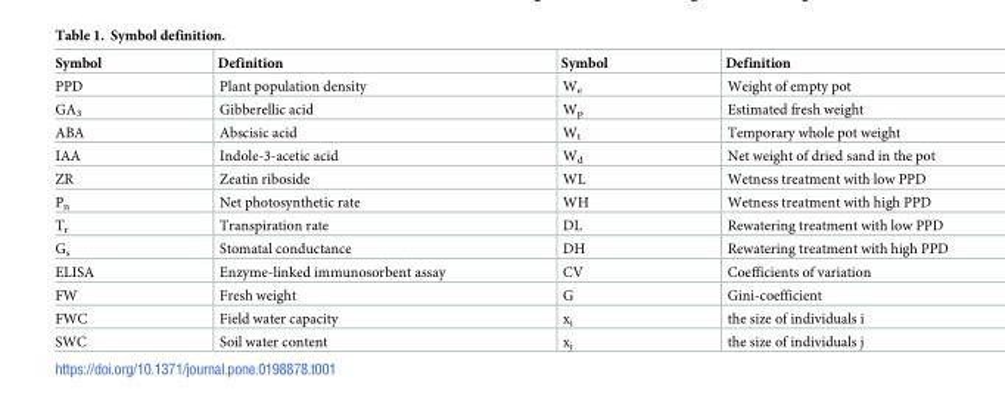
<table><thead><tr><td>Symbol</td><td>Definition</td><td>Symbol</td><td>Definition</td></tr></thead><tbody><tr><td>PPD</td><td>Plant population density</td><td>W<sub>e</sub></td><td>Weight of empty pot</td></tr><tr><td>GA<sub>3</sub></td><td>Gibberellic acid</td><td>W<sub>p</sub></td><td>Estimated fresh weight</td></tr><tr><td>ABA</td><td>Abscisic acid</td><td>W<sub>t</sub></td><td>Temporary whole pot weight</td></tr><tr><td>IAA</td><td>Indole-3-acetic acid</td><td>W<sub>d</sub></td><td>Net weight of dried sand in the pot</td></tr><tr><td>ZR</td><td>Zeatin riboside</td><td>WL</td><td>Wetness treatment with low PPD</td></tr><tr><td>P<sub>n</sub></td><td>Net photosynthetic rate</td><td>WH</td><td>Wetness treatment with high PPD</td></tr><tr><td>T<sub>r</sub></td><td>Transpiration rate</td><td>DL</td><td>Rewatering treatment with low PPD</td></tr><tr><td>G<sub>s</sub></td><td>Stomatal conductance</td><td>DH</td><td>Rewatering treatment with high PPD</td></tr><tr><td>ELISA</td><td>Enzyme-linked immunosorbent assay</td><td>CV</td><td>Coefficients of variation</td></tr><tr><td>FW</td><td>Fresh weight</td><td>G</td><td>Gini-coefficient</td></tr><tr><td>FWC</td><td>Field water capacity</td><td>x<sub>i</sub></td><td>the size of individuals i</td></tr><tr><td>SWC</td><td>Soil water content</td><td>x<sub>j</sub></td><td>the size of individuals j</td></tr></tbody></table>